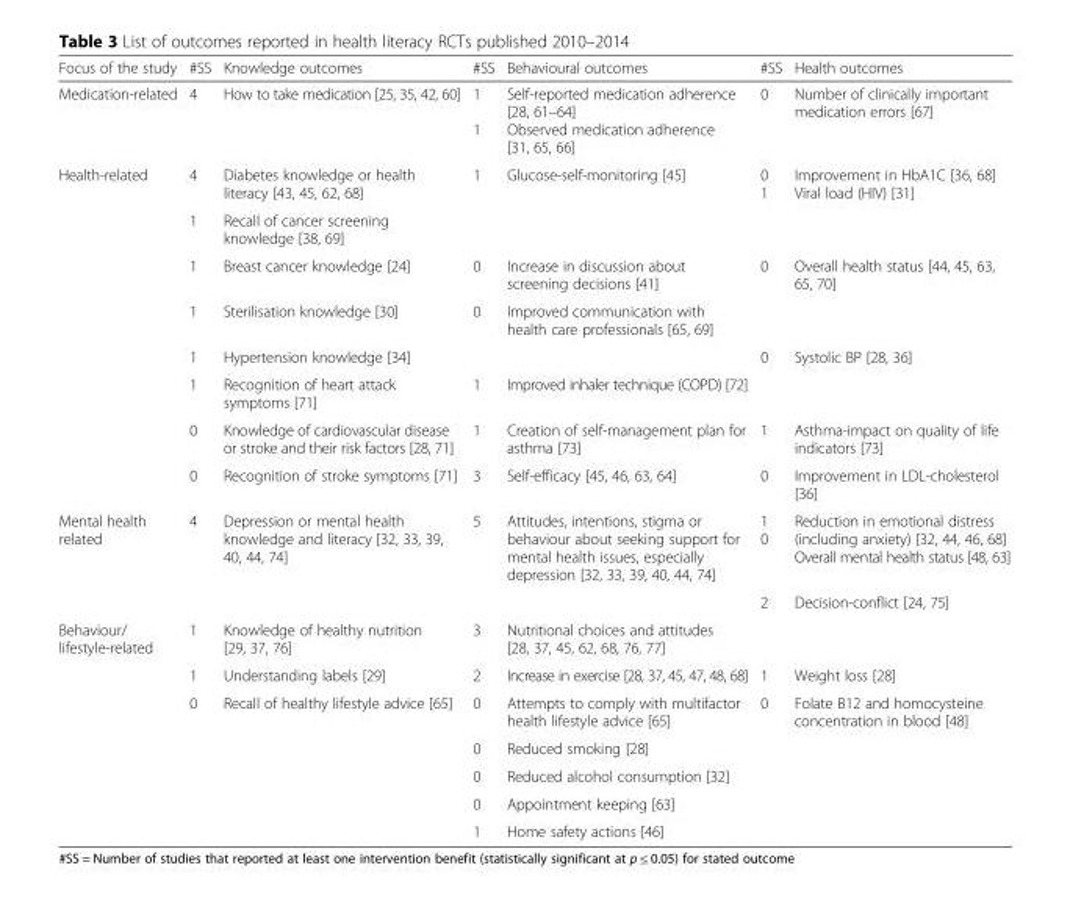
<table><thead><tr><td>Focus of the study</td><td>#SS</td><td>Knowledge outcomes</td><td>#SS</td><td>Behavioural outcomes</td><td>#SS</td><td>Health outcomes</td></tr></thead><tbody><tr><td>Medication-related</td><td>4</td><td>How to take medication [25, 35, 42, 60]</td><td>1 1</td><td>Self-reported medication adherence [28, 61–64] Observed medication adherence [31, 65, 66]</td><td>0</td><td>Number of clinically important medication errors [67]</td></tr><tr><td rowspan="8">Health-related</td><td>4</td><td>Diabetes knowledge or health literacy [43, 45, 62, 68]</td><td>1</td><td>Glucose-self-monitoring [45]</td><td>0 1</td><td>Improvement in HbA1C [36, 68] Viral load (HIV) [31]</td></tr><tr><td>1</td><td>Recall of cancer screening knowledge [38, 69]</td><td></td><td></td><td></td><td></td></tr><tr><td>1</td><td>Breast cancer knowledge [24]</td><td>0</td><td>Increase in discussion about screening decisions [41]</td><td>0</td><td>Overall health status [44, 45, 63, 65, 70]</td></tr><tr><td>1</td><td>Sterilisation knowledge [30]</td><td>0</td><td>Improved communication with health care professionals [65, 69]</td><td></td><td></td></tr><tr><td>1</td><td>Hypertension knowledge [34]</td><td></td><td></td><td>0</td><td>Systolic BP [28, 36]</td></tr><tr><td>1</td><td>Recognition of heart attack symptoms [71]</td><td>1</td><td>Improved inhaler technique (COPD) [72]</td><td></td><td></td></tr><tr><td>0</td><td>Knowledge of cardiovascular disease or stroke and their risk factors [28, 71]</td><td>1</td><td>Creation of self-management plan for asthma [73]</td><td>1</td><td>Asthma-impact on quality of life indicators [73]</td></tr><tr><td>0</td><td>Recognition of stroke symptoms [71]</td><td>3</td><td>Self-efficacy [45, 46, 63, 64]</td><td>0</td><td>Improvement in LDL-cholesterol [36]</td></tr><tr><td rowspan="2">Mental health related</td><td>4</td><td>Depression or mental health knowledge and literacy [32, 33, 39, 40, 44, 74]</td><td>5</td><td>Attitudes, intentions, stigma or behaviour about seeking support for mental health issues, especially depression [32, 33, 39, 40, 44, 74]</td><td>1 0</td><td>Reduction in emotional distress (including anxiety) [32, 44, 46, 68] Overall mental health status [48, 63]</td></tr><tr><td></td><td></td><td></td><td></td><td>2</td><td>Decision-conflict [24, 75]</td></tr><tr><td rowspan="7">Behaviour/ lifestyle-related</td><td>1</td><td>Knowledge of healthy nutrition [29, 37, 76]</td><td>3</td><td>Nutritional choices and attitudes [28, 37, 45, 62, 68, 76, 77]</td><td></td><td></td></tr><tr><td>1</td><td>Understanding labels [29]</td><td>2</td><td>Increase in exercise [28, 37, 45, 47, 48, 68]</td><td>1</td><td>Weight loss [28]</td></tr><tr><td>0</td><td>Recall of healthy lifestyle advice [65]</td><td>0</td><td>Attempts to comply with multifactor health lifestyle advice [65]</td><td>0</td><td>Folate B12 and homocysteine concentration in blood [48]</td></tr><tr><td></td><td></td><td>0</td><td>Reduced smoking [28]</td><td></td><td></td></tr><tr><td></td><td></td><td>0</td><td>Reduced alcohol consumption [32]</td><td></td><td></td></tr><tr><td></td><td></td><td>0</td><td>Appointment keeping [63]</td><td></td><td></td></tr><tr><td></td><td></td><td>1</td><td>Home safety actions [46]</td><td></td><td></td></tr></tbody></table>